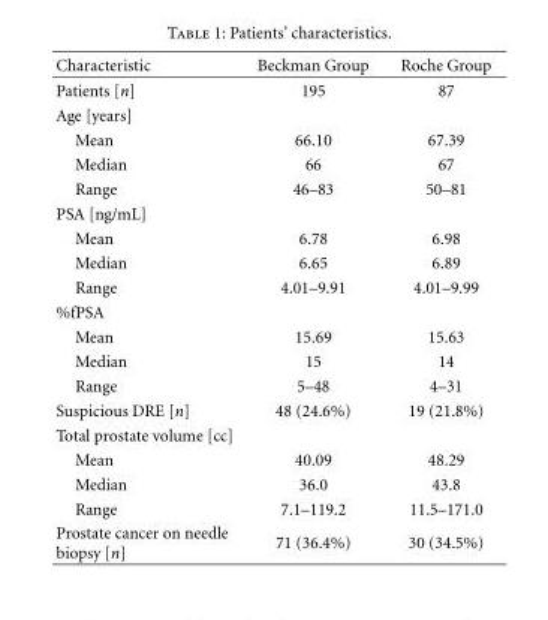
<table><thead><tr><td>Characteristic</td><td>Beckman Group</td><td>Roche Group</td></tr></thead><tbody><tr><td>Patients [n]</td><td>195</td><td>87</td></tr><tr><td colspan="3">Age [years]</td></tr><tr><td>Mean</td><td>66.10</td><td>67.39</td></tr><tr><td>Median</td><td>66</td><td>67</td></tr><tr><td>Range</td><td>46–83</td><td>50–81</td></tr><tr><td colspan="3">PSA [ng/mL]</td></tr><tr><td>Mean</td><td>6.78</td><td>6.98</td></tr><tr><td>Median</td><td>6.65</td><td>6.89</td></tr><tr><td>Range</td><td>4.01–9.91</td><td>4.01–9.99</td></tr><tr><td colspan="3">%fPSA</td></tr><tr><td>Mean</td><td>15.69</td><td>15.63</td></tr><tr><td>Median</td><td>15</td><td>14</td></tr><tr><td>Range</td><td>5–48</td><td>4–31</td></tr><tr><td>Suspicious DRE [n]</td><td>48 (24.6%)</td><td>19 (21.8%)</td></tr><tr><td colspan="3">Total prostate volume [cc]</td></tr><tr><td>Mean</td><td>40.09</td><td>48.29</td></tr><tr><td>Median</td><td>36.0</td><td>43.8</td></tr><tr><td>Range</td><td>7.1–119.2</td><td>11.5–171.0</td></tr><tr><td>Prostate cancer on needle biopsy [n]</td><td>71 (36.4%)</td><td>30 (34.5%)</td></tr></tbody></table>